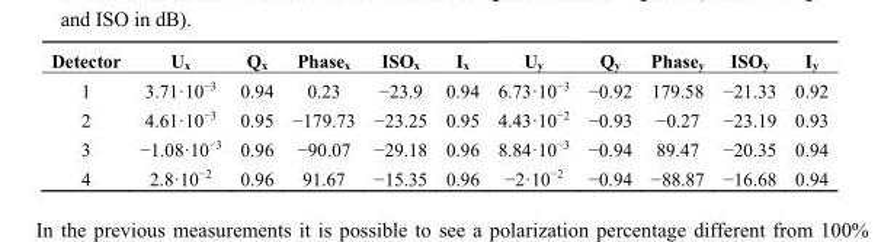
<table><thead><tr><td>Detector</td><td>U<sub>x</sub></td><td>Q<sub>x</sub></td><td>Phase<sub>x</sub></td><td>ISO<sub>x</sub></td><td>I<sub>x</sub></td><td>U<sub>y</sub></td><td>Q<sub>y</sub></td><td>Phase<sub>y</sub></td><td>ISO<sub>y</sub></td><td>I<sub>y</sub></td></tr></thead><tbody><tr><td>1</td><td>3.71·10<sup>−3</sup></td><td>0.94</td><td>0.23</td><td>−23.9</td><td>0.94</td><td>6.73·10<sup>−3</sup></td><td>−0.92</td><td>179.58</td><td>−21.33</td><td>0.92</td></tr><tr><td>2</td><td>4.61·10<sup>−3</sup></td><td>0.95</td><td>−179.73</td><td>−23.25</td><td>0.95</td><td>4.43·10<sup>−2</sup></td><td>−0.93</td><td>−0.27</td><td>−23.19</td><td>0.93</td></tr><tr><td>3</td><td>−1.08·10<sup>−3</sup></td><td>0.96</td><td>−90.07</td><td>−29.18</td><td>0.96</td><td>8.84·10<sup>−3</sup></td><td>−0.94</td><td>89.47</td><td>−20.35</td><td>0.94</td></tr><tr><td>4</td><td>2.8·10<sup>−2</sup></td><td>0.96</td><td>91.67</td><td>−15.35</td><td>0.96</td><td>−2·10<sup>−2</sup></td><td>−0.94</td><td>−88.87</td><td>−16.68</td><td>0.94</td></tr></tbody></table>